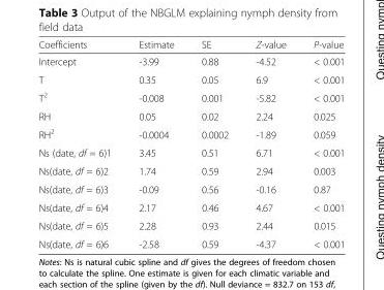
<table><thead><tr><td>Coefficients</td><td>Estimate</td><td>SE</td><td>Z-value</td><td>P-value</td></tr></thead><tbody><tr><td>Intercept</td><td>-3.99</td><td>0.88</td><td>-4.52</td><td>&lt; 0.001</td></tr><tr><td>T</td><td>0.35</td><td>0.05</td><td>6.9</td><td>&lt; 0.001</td></tr><tr><td>T<sup>2</sup></td><td>-0.008</td><td>0.001</td><td>-5.82</td><td>&lt; 0.001</td></tr><tr><td>RH</td><td>0.05</td><td>0.02</td><td>2.24</td><td>0.025</td></tr><tr><td>RH<sup>2</sup></td><td>-0.0004</td><td>0.0002</td><td>-1.89</td><td>0.059</td></tr><tr><td>Ns (date, df = 6)1</td><td>3.45</td><td>0.51</td><td>6.71</td><td>&lt; 0.001</td></tr><tr><td>Ns(date, df = 6)2</td><td>1.74</td><td>0.59</td><td>2.94</td><td>0.003</td></tr><tr><td>Ns(date, df = 6)3</td><td>-0.09</td><td>0.56</td><td>-0.16</td><td>0.87</td></tr><tr><td>Ns(date, df = 6)4</td><td>2.17</td><td>0.46</td><td>4.67</td><td>&lt; 0.001</td></tr><tr><td>Ns(date, df = 6)5</td><td>2.28</td><td>0.93</td><td>2.44</td><td>0.015</td></tr><tr><td>Ns(date, df = 6)6</td><td>-2.58</td><td>0.59</td><td>-4.37</td><td>&lt; 0.001</td></tr></tbody></table>